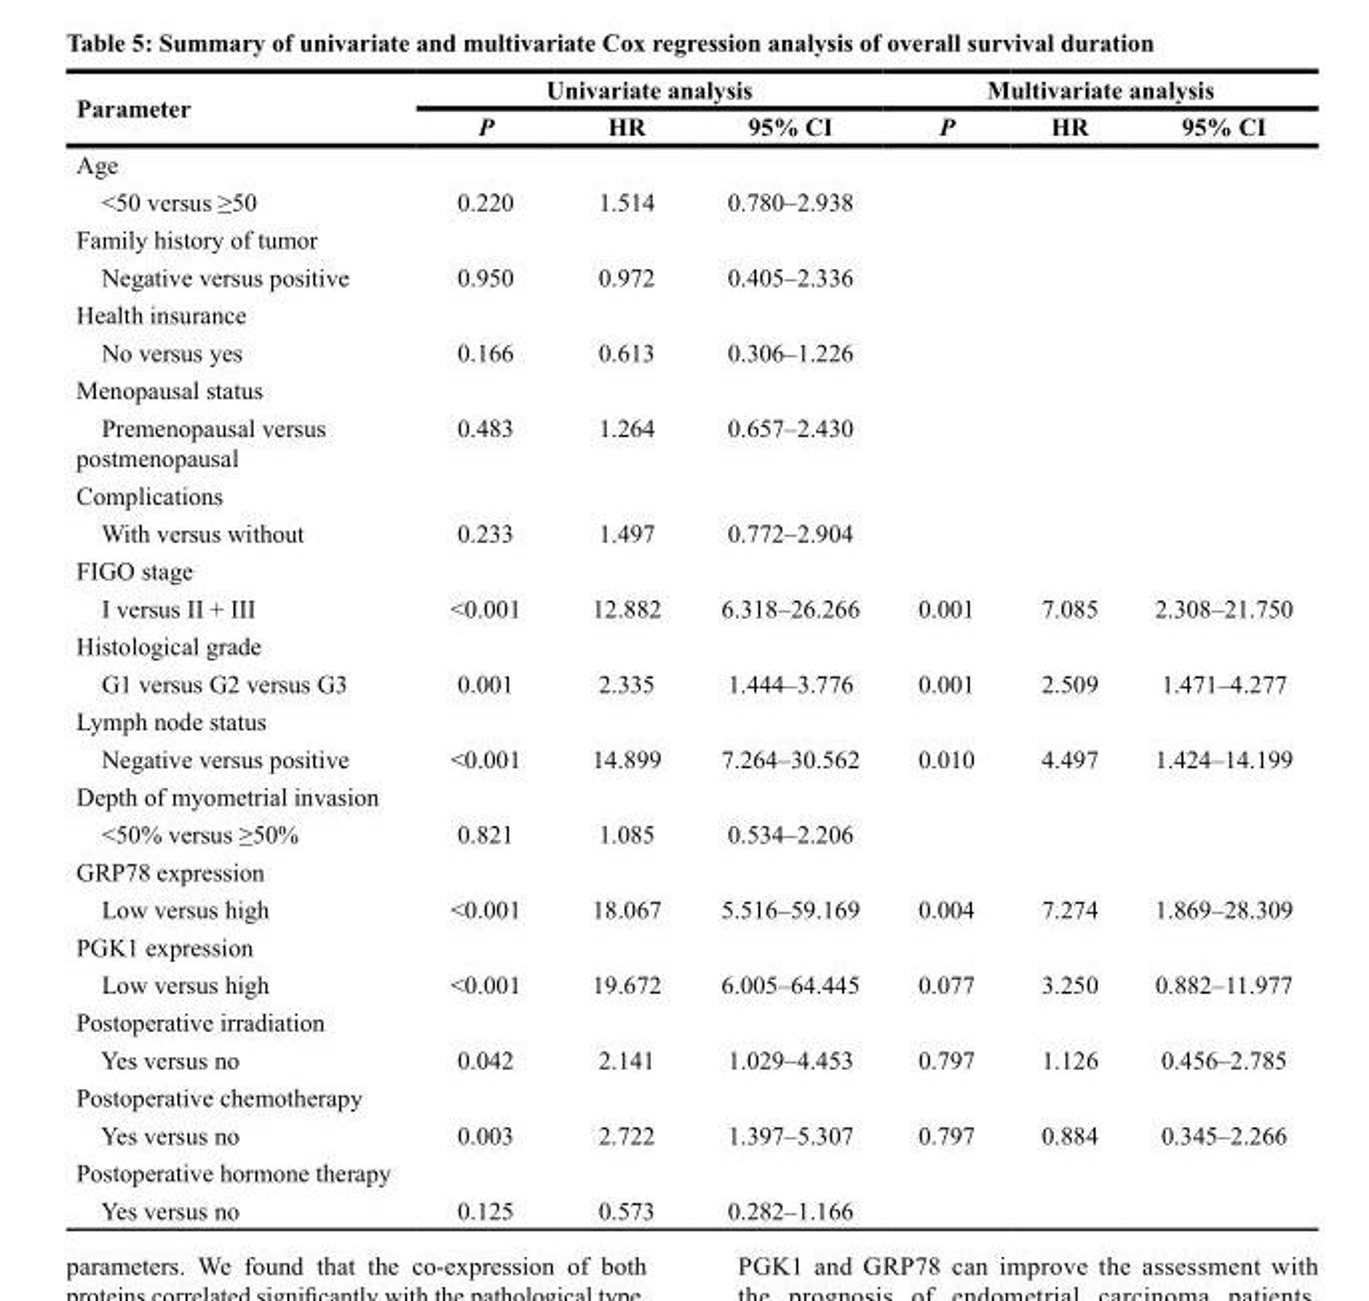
<table><thead><tr><td rowspan="2">Parameter</td><td colspan="3">Univariate analysis</td><td colspan="3">Multivariate analysis</td></tr><tr><td>P</td><td>HR</td><td>95% CI</td><td>P</td><td>HR</td><td>95% CI</td></tr></thead><tbody><tr><td colspan="7">Age</td></tr><tr><td>&lt;50 versus ≥50</td><td>0.220</td><td>1.514</td><td>0.780–2.938</td><td></td><td></td><td></td></tr><tr><td colspan="7">Family history of tumor</td></tr><tr><td>Negative versus positive</td><td>0.950</td><td>0.972</td><td>0.405–2.336</td><td></td><td></td><td></td></tr><tr><td colspan="7">Health insurance</td></tr><tr><td>No versus yes</td><td>0.166</td><td>0.613</td><td>0.306–1.226</td><td></td><td></td><td></td></tr><tr><td colspan="7">Menopausal status</td></tr><tr><td>Premenopausal versus postmenopausal</td><td>0.483</td><td>1.264</td><td>0.657–2.430</td><td></td><td></td><td></td></tr><tr><td colspan="7">Complications</td></tr><tr><td>With versus without</td><td>0.233</td><td>1.497</td><td>0.772–2.904</td><td></td><td></td><td></td></tr><tr><td colspan="7">FIGO stage</td></tr><tr><td>I versus II + III</td><td>&lt;0.001</td><td>12.882</td><td>6.318–26.266</td><td>0.001</td><td>7.085</td><td>2.308–21.750</td></tr><tr><td colspan="7">Histological grade</td></tr><tr><td>G1 versus G2 versus G3</td><td>0.001</td><td>2.335</td><td>1.444–3.776</td><td>0.001</td><td>2.509</td><td>1.471–4.277</td></tr><tr><td colspan="7">Lymph node status</td></tr><tr><td>Negative versus positive</td><td>&lt;0.001</td><td>14.899</td><td>7.264–30.562</td><td>0.010</td><td>4.497</td><td>1.424–14.199</td></tr><tr><td colspan="7">Depth of myometrial invasion</td></tr><tr><td>&lt;50% versus ≥50%</td><td>0.821</td><td>1.085</td><td>0.534–2.206</td><td></td><td></td><td></td></tr><tr><td colspan="7">GRP78 expression</td></tr><tr><td>Low versus high</td><td>&lt;0.001</td><td>18.067</td><td>5.516–59.169</td><td>0.004</td><td>7.274</td><td>1.869–28.309</td></tr><tr><td colspan="7">PGK1 expression</td></tr><tr><td>Low versus high</td><td>&lt;0.001</td><td>19.672</td><td>6.005–64.445</td><td>0.077</td><td>3.250</td><td>0.882–11.977</td></tr><tr><td colspan="7">Postoperative irradiation</td></tr><tr><td>Yes versus no</td><td>0.042</td><td>2.141</td><td>1.029–4.453</td><td>0.797</td><td>1.126</td><td>0.456–2.785</td></tr><tr><td colspan="7">Postoperative chemotherapy</td></tr><tr><td>Yes versus no</td><td>0.003</td><td>2.722</td><td>1.397–5.307</td><td>0.797</td><td>0.884</td><td>0.345–2.266</td></tr><tr><td colspan="7">Postoperative hormone therapy</td></tr><tr><td>Yes versus no</td><td>0.125</td><td>0.573</td><td>0.282–1.166</td><td></td><td></td><td></td></tr></tbody></table>